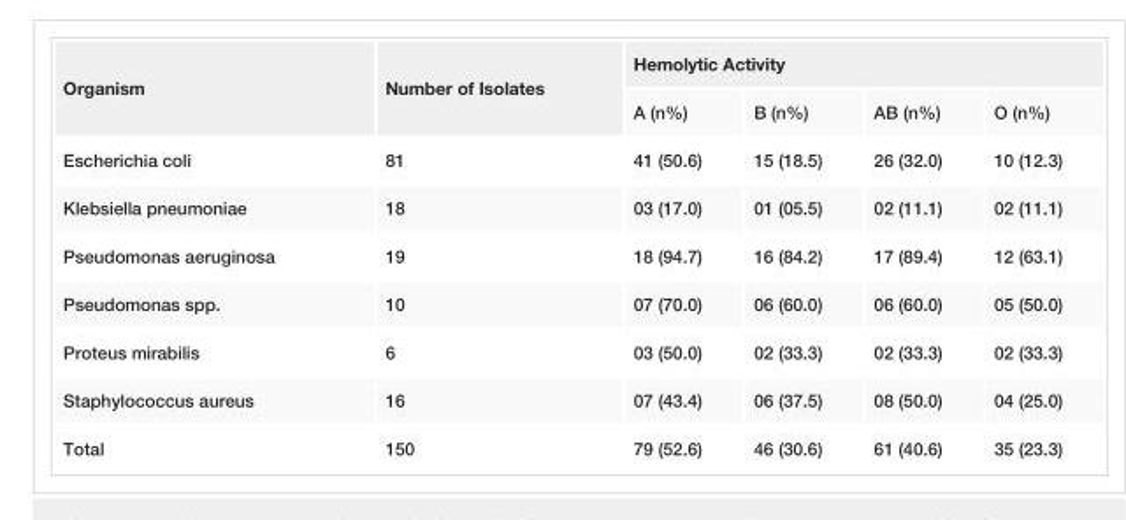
<table><tbody><tr><td rowspan="2">Organism</td><td rowspan="2">Number of Isolates</td><td colspan="4">Hemolytic Activity</td></tr><tr><td>A (n%)</td><td>B (n%)</td><td>AB (n%)</td><td>O (n%)</td></tr><tr><td>Escherichia coli</td><td>81</td><td>41 (50.6)</td><td>15 (18.5)</td><td>26 (32.0)</td><td>10 (12.3)</td></tr><tr><td>Klebsiella pneumoniae</td><td>18</td><td>03 (17.0)</td><td>01 (05.5)</td><td>02 (11.1)</td><td>02 (11.1)</td></tr><tr><td>Pseudomonas aeruginosa</td><td>19</td><td>18 (94.7)</td><td>16 (84.2)</td><td>17 (89.4)</td><td>12 (63.1)</td></tr><tr><td>Pseudomonas spp.</td><td>10</td><td>07 (70.0)</td><td>06 (60.0)</td><td>06 (60.0)</td><td>05 (50.0)</td></tr><tr><td>Proteus mirabilis</td><td>6</td><td>03 (50.0)</td><td>02 (33.3)</td><td>02 (33.3)</td><td>02 (33.3)</td></tr><tr><td>Staphylococcus aureus</td><td>16</td><td>07 (43.4)</td><td>06 (37.5)</td><td>08 (50.0)</td><td>04 (25.0)</td></tr><tr><td>Total</td><td>150</td><td>79 (52.6)</td><td>46 (30.6)</td><td>61 (40.6)</td><td>35 (23.3)</td></tr></tbody></table>